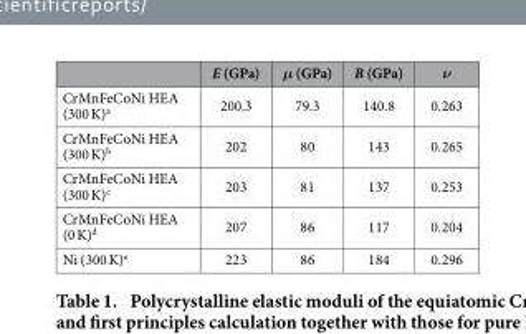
<table><thead><tr><td></td><td>E (GPa)</td><td>μ (GPa)</td><td>B (GPa)</td><td>ν</td></tr></thead><tbody><tr><td>CrMnFeCoNi HEA (300 K)<sup>a</sup></td><td>200.3</td><td>79.3</td><td>140.8</td><td>0.263</td></tr><tr><td>CrMnFeCoNi HEA (300 K)<sup>b</sup></td><td>202</td><td>80</td><td>143</td><td>0.265</td></tr><tr><td>CrMnFeCoNi HEA (300 K)<sup>c</sup></td><td>203</td><td>81</td><td>137</td><td>0.253</td></tr><tr><td>CrMnFeCoNi HEA (0 K)<sup>d</sup></td><td>207</td><td>86</td><td>117</td><td>0.204</td></tr><tr><td>Ni (300 K)<sup>e</sup></td><td>223</td><td>86</td><td>184</td><td>0.296</td></tr></tbody></table>